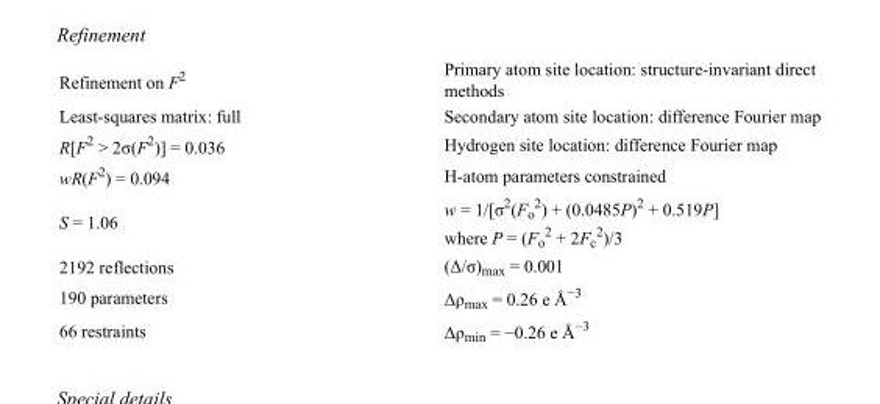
<table><tbody><tr><td>Refinement on F<sup>2</sup></td><td>Primary atom site location: structure-invariant direct methods</td></tr><tr><td>Least-squares matrix: full</td><td>Secondary atom site location: difference Fourier map</td></tr><tr><td>R[F<sup>2</sup> &gt; 2σ(F<sup>2</sup>)] = 0.036</td><td>Hydrogen site location: difference Fourier map</td></tr><tr><td>wR(F<sup>2</sup>) = 0.094</td><td>H-atom parameters constrained</td></tr><tr><td>S = 1.06</td><td>w = 1/[σ<sup>2</sup>(F<sub>o</sub> <sup>2</sup>) + (0.0485P)<sup>2</sup> + 0.519P] where P = (F<sub>o</sub> <sup>2</sup> + 2F<sub>c</sub> <sup>2</sup>)/3</td></tr><tr><td>2192 reflections</td><td>(Δ/σ)<sub>max</sub> = 0.001</td></tr><tr><td>190 parameters</td><td>Δρ<sub>max</sub> = 0.26 e Å<sup>−3</sup></td></tr><tr><td>66 restraints</td><td>Δρ<sub>min</sub> = −0.26 e Å<sup>−3</sup></td></tr></tbody></table>